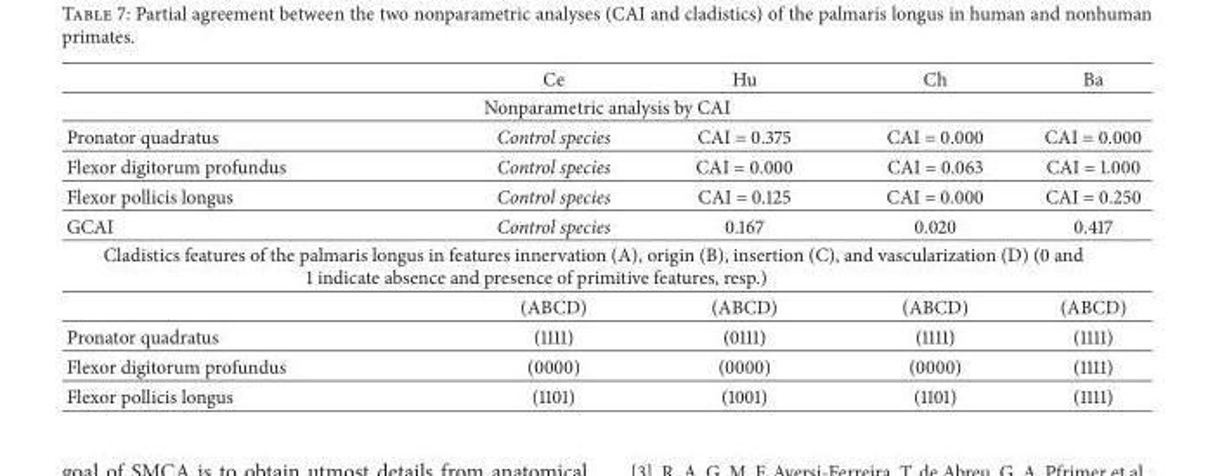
<table><thead><tr><td></td><td>Ce</td><td>Hu</td><td>Ch</td><td>Ba</td></tr></thead><tbody><tr><td colspan="5">Nonparametric analysis by CAI</td></tr><tr><td>Pronator quadratus</td><td>Control species</td><td>CAI = 0.375</td><td>CAI = 0.000</td><td>CAI = 0.000</td></tr><tr><td>Flexor digitorum profundus</td><td>Control species</td><td>CAI = 0.000</td><td>CAI = 0.063</td><td>CAI = 1.000</td></tr><tr><td>Flexor pollicis longus</td><td>Control species</td><td>CAI = 0.125</td><td>CAI = 0.000</td><td>CAI = 0.250</td></tr><tr><td>GCAI</td><td>Control species</td><td>0.167</td><td>0.020</td><td>0.417</td></tr><tr><td colspan="5">Cladistics features of the palmaris longus in features innervation (A), origin (B), insertion (C), and vascularization (D) (0 and 1 indicate absence and presence of primitive features, resp.)</td></tr><tr><td></td><td>(ABCD)</td><td>(ABCD)</td><td>(ABCD)</td><td>(ABCD)</td></tr><tr><td>Pronator quadratus</td><td>(1111)</td><td>(0111)</td><td>(1111)</td><td>(1111)</td></tr><tr><td>Flexor digitorum profundus</td><td>(0000)</td><td>(0000)</td><td>(0000)</td><td>(1111)</td></tr><tr><td>Flexor pollicis longus</td><td>(1101)</td><td>(1001)</td><td>(1101)</td><td>(1111)</td></tr></tbody></table>